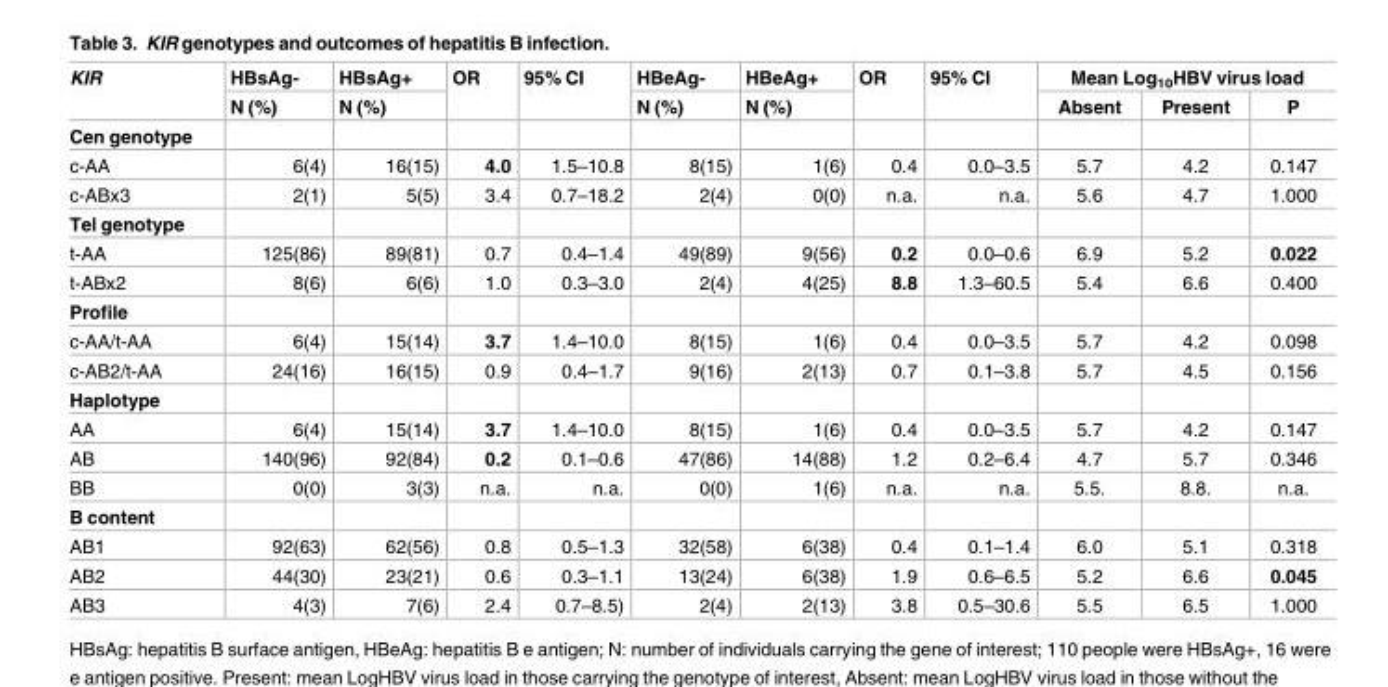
<table><thead><tr><td rowspan="2">KIR</td><td rowspan="2">HBsAg- N (%)</td><td rowspan="2">HBsAg+ N (%)</td><td rowspan="2">OR</td><td rowspan="2">95% CI</td><td rowspan="2">HBeAg- N (%)</td><td rowspan="2">HBeAg+ N (%)</td><td rowspan="2">OR</td><td rowspan="2">95% CI</td><td colspan="3">Mean Log<sub>10</sub>HBV virus load</td></tr><tr><td>Absent</td><td>Present</td><td>P</td></tr></thead><tbody><tr><td colspan="12">Cen genotype</td></tr><tr><td>c-AA</td><td>6(4)</td><td>16(15)</td><td>4.0</td><td>1.5–10.8</td><td>8(15)</td><td>1(6)</td><td>0.4</td><td>0.0–3.5</td><td>5.7</td><td>4.2</td><td>0.147</td></tr><tr><td>c-ABx3</td><td>2(1)</td><td>5(5)</td><td>3.4</td><td>0.7–18.2</td><td>2(4)</td><td>0(0)</td><td>n.a.</td><td>n.a.</td><td>5.6</td><td>4.7</td><td>1.000</td></tr><tr><td colspan="12">Tel genotype</td></tr><tr><td>t-AA</td><td>125(86)</td><td>89(81)</td><td>0.7</td><td>0.4–1.4</td><td>49(89)</td><td>9(56)</td><td>0.2</td><td>0.0–0.6</td><td>6.9</td><td>5.2</td><td>0.022</td></tr><tr><td>t-ABx2</td><td>8(6)</td><td>6(6)</td><td>1.0</td><td>0.3–3.0</td><td>2(4)</td><td>4(25)</td><td>8.8</td><td>1.3–60.5</td><td>5.4</td><td>6.6</td><td>0.400</td></tr><tr><td colspan="12">Profile</td></tr><tr><td>c-AA/t-AA</td><td>6(4)</td><td>15(14)</td><td>3.7</td><td>1.4–10.0</td><td>8(15)</td><td>1(6)</td><td>0.4</td><td>0.0–3.5</td><td>5.7</td><td>4.2</td><td>0.098</td></tr><tr><td>c-AB2/t-AA</td><td>24(16)</td><td>16(15)</td><td>0.9</td><td>0.4–1.7</td><td>9(16)</td><td>2(13)</td><td>0.7</td><td>0.1–3.8</td><td>5.7</td><td>4.5</td><td>0.156</td></tr><tr><td colspan="12">Haplotype</td></tr><tr><td>AA</td><td>6(4)</td><td>15(14)</td><td>3.7</td><td>1.4–10.0</td><td>8(15)</td><td>1(6)</td><td>0.4</td><td>0.0–3.5</td><td>5.7</td><td>4.2</td><td>0.147</td></tr><tr><td>AB</td><td>140(96)</td><td>92(84)</td><td>0.2</td><td>0.1–0.6</td><td>47(86)</td><td>14(88)</td><td>1.2</td><td>0.2–6.4</td><td>4.7</td><td>5.7</td><td>0.346</td></tr><tr><td>BB</td><td>0(0)</td><td>3(3)</td><td>n.a.</td><td>n.a.</td><td>0(0)</td><td>1(6)</td><td>n.a.</td><td>n.a.</td><td>5.5.</td><td>8.8.</td><td>n.a.</td></tr><tr><td colspan="12">B content</td></tr><tr><td>AB1</td><td>92(63)</td><td>62(56)</td><td>0.8</td><td>0.5–1.3</td><td>32(58)</td><td>6(38)</td><td>0.4</td><td>0.1–1.4</td><td>6.0</td><td>5.1</td><td>0.318</td></tr><tr><td>AB2</td><td>44(30)</td><td>23(21)</td><td>0.6</td><td>0.3–1.1</td><td>13(24)</td><td>6(38)</td><td>1.9</td><td>0.6–6.5</td><td>5.2</td><td>6.6</td><td>0.045</td></tr><tr><td>AB3</td><td>4(3)</td><td>7(6)</td><td>2.4</td><td>0.7–8.5)</td><td>2(4)</td><td>2(13)</td><td>3.8</td><td>0.5–30.6</td><td>5.5</td><td>6.5</td><td>1.000</td></tr></tbody></table>